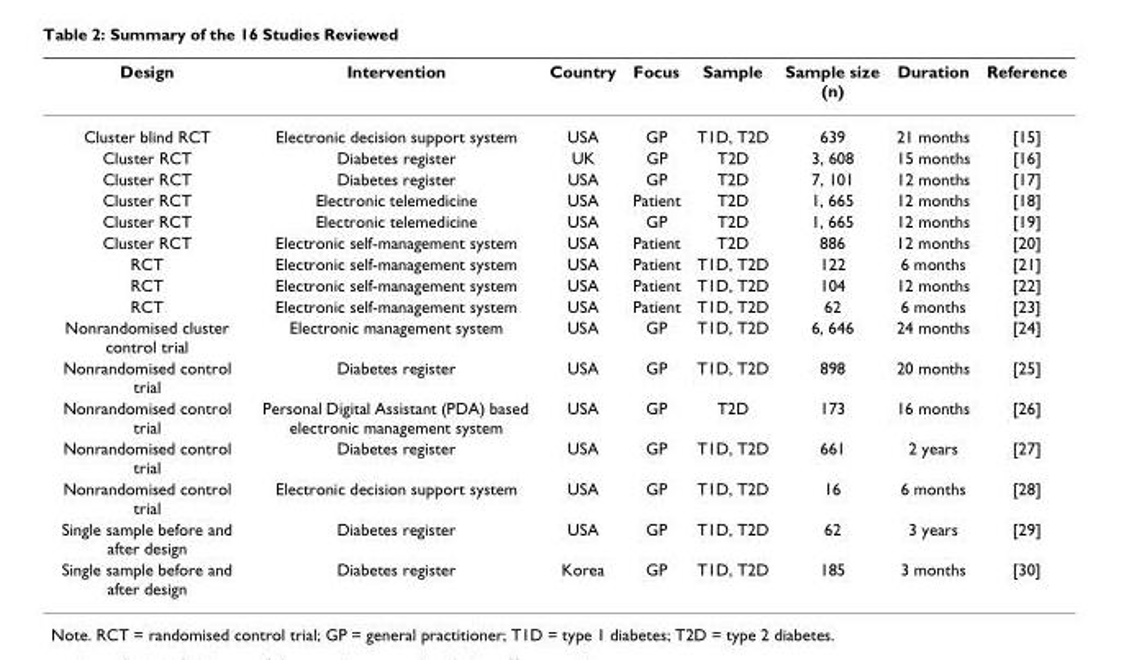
<table><thead><tr><td>Design</td><td>Intervention</td><td>Country</td><td>Focus</td><td>Sample</td><td>Sample size (n)</td><td>Duration</td><td>Reference</td></tr></thead><tbody><tr><td>Cluster blind RCT</td><td>Electronic decision support system</td><td>USA</td><td>GP</td><td>T1D, T2D</td><td>639</td><td>21 months</td><td>[15]</td></tr><tr><td>Cluster RCT</td><td>Diabetes register</td><td>UK</td><td>GP</td><td>T2D</td><td>3, 608</td><td>15 months</td><td>[16]</td></tr><tr><td>Cluster RCT</td><td>Diabetes register</td><td>USA</td><td>GP</td><td>T2D</td><td>7, 101</td><td>12 months</td><td>[17]</td></tr><tr><td>Cluster RCT</td><td>Electronic telemedicine</td><td>USA</td><td>Patient</td><td>T2D</td><td>1, 665</td><td>12 months</td><td>[18]</td></tr><tr><td>Cluster RCT</td><td>Electronic telemedicine</td><td>USA</td><td>GP</td><td>T2D</td><td>1, 665</td><td>12 months</td><td>[19]</td></tr><tr><td>Cluster RCT</td><td>Electronic self-management system</td><td>USA</td><td>Patient</td><td>T2D</td><td>886</td><td>12 months</td><td>[20]</td></tr><tr><td>RCT</td><td>Electronic self-management system</td><td>USA</td><td>Patient</td><td>T1D, T2D</td><td>122</td><td>6 months</td><td>[21]</td></tr><tr><td>RCT</td><td>Electronic self-management system</td><td>USA</td><td>Patient</td><td>T1D, T2D</td><td>104</td><td>12 months</td><td>[22]</td></tr><tr><td>RCT</td><td>Electronic self-management system</td><td>USA</td><td>Patient</td><td>T1D, T2D</td><td>62</td><td>6 months</td><td>[23]</td></tr><tr><td>Nonrandomised cluster control trial</td><td>Electronic management system</td><td>USA</td><td>GP</td><td>T1D, T2D</td><td>6, 646</td><td>24 months</td><td>[24]</td></tr><tr><td>Nonrandomised control trial</td><td>Diabetes register</td><td>USA</td><td>GP</td><td>T1D, T2D</td><td>898</td><td>20 months</td><td>[25]</td></tr><tr><td>Nonrandomised control trial</td><td>Personal Digital Assistant (PDA) based electronic management system</td><td>USA</td><td>GP</td><td>T2D</td><td>173</td><td>16 months</td><td>[26]</td></tr><tr><td>Nonrandomised control trial</td><td>Diabetes register</td><td>USA</td><td>GP</td><td>T1D, T2D</td><td>661</td><td>2 years</td><td>[27]</td></tr><tr><td>Nonrandomised control trial</td><td>Electronic decision support system</td><td>USA</td><td>GP</td><td>T1D, T2D</td><td>16</td><td>6 months</td><td>[28]</td></tr><tr><td>Single sample before and after design</td><td>Diabetes register</td><td>USA</td><td>GP</td><td>T1D, T2D</td><td>62</td><td>3 years</td><td>[29]</td></tr><tr><td>Single sample before and after design</td><td>Diabetes register</td><td>Korea</td><td>GP</td><td>T1D, T2D</td><td>185</td><td>3 months</td><td>[30]</td></tr></tbody></table>